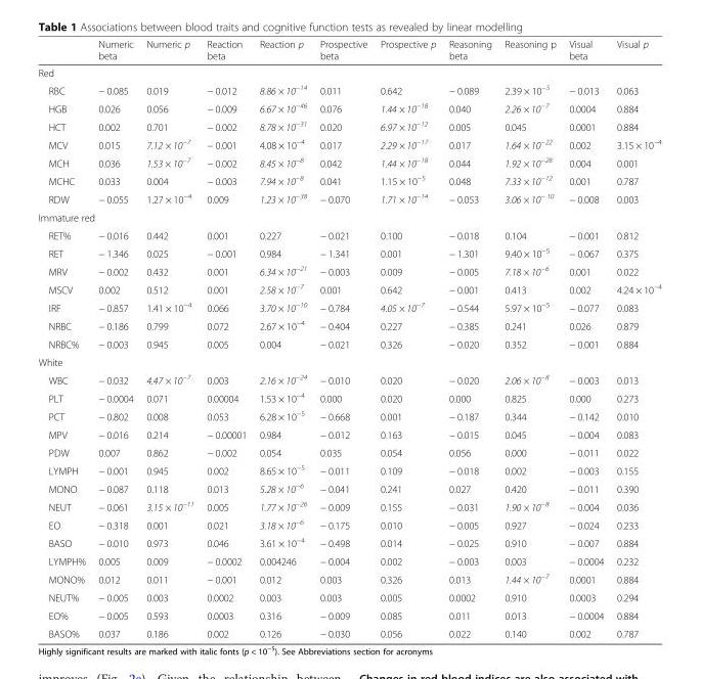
<table><thead><tr><td></td><td>Numeric beta</td><td>Numeric p</td><td>Reaction beta</td><td>Reaction p</td><td>Prospective beta</td><td>Prospective p</td><td>Reasoning beta</td><td>Reasoning p</td><td>Visual beta</td><td>Visual p</td></tr></thead><tbody><tr><td colspan="11">Red</td></tr><tr><td>RBC</td><td>− 0.085</td><td>0.019</td><td>− 0.012</td><td>8.86 × 10<sup>−14</sup></td><td>0.011</td><td>0.642</td><td>− 0.089</td><td>2.39 × 10<sup>−5</sup></td><td>− 0.013</td><td>0.063</td></tr><tr><td>HGB</td><td>0.026</td><td>0.056</td><td>− 0.009</td><td>6.67 × 10<sup>−46</sup></td><td>0.076</td><td>1.44 × 10<sup>−18</sup></td><td>0.040</td><td>2.26 × 10<sup>−7</sup></td><td>0.0004</td><td>0.884</td></tr><tr><td>HCT</td><td>0.002</td><td>0.701</td><td>− 0.002</td><td>8.78 × 10<sup>−31</sup></td><td>0.020</td><td>6.97 × 10<sup>−12</sup></td><td>0.005</td><td>0.045</td><td>0.0001</td><td>0.884</td></tr><tr><td>MCV</td><td>0.015</td><td>7.12 × 10<sup>−7</sup></td><td>− 0.001</td><td>4.08 × 10<sup>−4</sup></td><td>0.017</td><td>2.29 × 10<sup>−17</sup></td><td>0.017</td><td>1.64 × 10<sup>−22</sup></td><td>0.002</td><td>3.15 × 10<sup>−4</sup></td></tr><tr><td>MCH</td><td>0.036</td><td>1.53 × 10<sup>−7</sup></td><td>− 0.002</td><td>8.45 × 10<sup>−8</sup></td><td>0.042</td><td>1.44 × 10<sup>−18</sup></td><td>0.044</td><td>1.92 × 10<sup>−28</sup></td><td>0.004</td><td>0.001</td></tr><tr><td>MCHC</td><td>0.033</td><td>0.004</td><td>− 0.003</td><td>7.94 × 10<sup>−8</sup></td><td>0.041</td><td>1.15 × 10<sup>−5</sup></td><td>0.048</td><td>7.33 × 10<sup>−12</sup></td><td>0.001</td><td>0.787</td></tr><tr><td>RDW</td><td>− 0.055</td><td>1.27 × 10<sup>−4</sup></td><td>0.009</td><td>1.23 × 10<sup>−38</sup></td><td>− 0.070</td><td>1.71 × 10<sup>−14</sup></td><td>− 0.053</td><td>3.06 × 10<sup>− 10</sup></td><td>− 0.008</td><td>0.003</td></tr><tr><td colspan="11">Immature red</td></tr><tr><td>RET%</td><td>− 0.016</td><td>0.442</td><td>0.001</td><td>0.227</td><td>− 0.021</td><td>0.100</td><td>− 0.018</td><td>0.104</td><td>− 0.001</td><td>0.812</td></tr><tr><td>RET</td><td>− 1.346</td><td>0.025</td><td>− 0.001</td><td>0.984</td><td>− 1.341</td><td>0.001</td><td>− 1.301</td><td>9.40 × 10<sup>−5</sup></td><td>− 0.067</td><td>0.375</td></tr><tr><td>MRV</td><td>− 0.002</td><td>0.432</td><td>0.001</td><td>6.34 × 10<sup>−21</sup></td><td>− 0.003</td><td>0.009</td><td>− 0.005</td><td>7.18 × 10<sup>−6</sup></td><td>0.001</td><td>0.022</td></tr><tr><td>MSCV</td><td>0.002</td><td>0.512</td><td>0.001</td><td>2.58 × 10<sup>−7</sup></td><td>0.001</td><td>0.642</td><td>− 0.001</td><td>0.413</td><td>0.002</td><td>4.24 × 10<sup>−4</sup></td></tr><tr><td>IRF</td><td>− 0.857</td><td>1.41 × 10<sup>−4</sup></td><td>0.066</td><td>3.70 × 10<sup>−10</sup></td><td>− 0.784</td><td>4.05 × 10<sup>−7</sup></td><td>− 0.544</td><td>5.97 × 10<sup>−5</sup></td><td>− 0.077</td><td>0.083</td></tr><tr><td>NRBC</td><td>− 0.186</td><td>0.799</td><td>0.072</td><td>2.67 × 10<sup>−4</sup></td><td>− 0.404</td><td>0.227</td><td>− 0.385</td><td>0.241</td><td>0.026</td><td>0.879</td></tr><tr><td>NRBC%</td><td>− 0.003</td><td>0.945</td><td>0.005</td><td>0.004</td><td>− 0.021</td><td>0.326</td><td>− 0.020</td><td>0.352</td><td>− 0.001</td><td>0.884</td></tr><tr><td colspan="11">White</td></tr><tr><td>WBC</td><td>− 0.032</td><td>4.47 × 10<sup>−7</sup></td><td>0.003</td><td>2.16 × 10<sup>−24</sup></td><td>− 0.010</td><td>0.020</td><td>− 0.020</td><td>2.06 × 10<sup>−8</sup></td><td>− 0.003</td><td>0.013</td></tr><tr><td>PLT</td><td>− 0.0004</td><td>0.071</td><td>0.00004</td><td>1.53 × 10<sup>−4</sup></td><td>0.000</td><td>0.020</td><td>0.000</td><td>0.825</td><td>0.000</td><td>0.273</td></tr><tr><td>PCT</td><td>− 0.802</td><td>0.008</td><td>0.053</td><td>6.28 × 10<sup>−5</sup></td><td>− 0.668</td><td>0.001</td><td>− 0.187</td><td>0.344</td><td>− 0.142</td><td>0.010</td></tr><tr><td>MPV</td><td>− 0.016</td><td>0.214</td><td>− 0.00001</td><td>0.984</td><td>− 0.012</td><td>0.163</td><td>− 0.015</td><td>0.045</td><td>− 0.004</td><td>0.083</td></tr><tr><td>PDW</td><td>0.007</td><td>0.862</td><td>− 0.002</td><td>0.054</td><td>0.035</td><td>0.054</td><td>0.056</td><td>0.000</td><td>− 0.011</td><td>0.022</td></tr><tr><td>LYMPH</td><td>− 0.001</td><td>0.945</td><td>0.002</td><td>8.65 × 10<sup>−5</sup></td><td>− 0.011</td><td>0.109</td><td>− 0.018</td><td>0.002</td><td>− 0.003</td><td>0.155</td></tr><tr><td>MONO</td><td>− 0.087</td><td>0.118</td><td>0.013</td><td>5.28 × 10<sup>−6</sup></td><td>− 0.041</td><td>0.241</td><td>0.027</td><td>0.420</td><td>− 0.011</td><td>0.390</td></tr><tr><td>NEUT</td><td>− 0.061</td><td>3.15 × 10<sup>−11</sup></td><td>0.005</td><td>1.77 × 10<sup>−26</sup></td><td>− 0.009</td><td>0.155</td><td>− 0.031</td><td>1.90 × 10<sup>−8</sup></td><td>− 0.004</td><td>0.036</td></tr><tr><td>EO</td><td>− 0.318</td><td>0.001</td><td>0.021</td><td>3.18 × 10<sup>−6</sup></td><td>− 0.175</td><td>0.010</td><td>− 0.005</td><td>0.927</td><td>− 0.024</td><td>0.233</td></tr><tr><td>BASO</td><td>− 0.010</td><td>0.973</td><td>0.046</td><td>3.61 × 10<sup>−4</sup></td><td>− 0.498</td><td>0.014</td><td>− 0.025</td><td>0.910</td><td>− 0.007</td><td>0.884</td></tr><tr><td>LYMPH%</td><td>0.005</td><td>0.009</td><td>− 0.0002</td><td>0.004246</td><td>− 0.004</td><td>0.002</td><td>− 0.003</td><td>0.003</td><td>− 0.0004</td><td>0.232</td></tr><tr><td>MONO%</td><td>0.012</td><td>0.011</td><td>− 0.001</td><td>0.012</td><td>0.003</td><td>0.326</td><td>0.013</td><td>1.44 × 10<sup>−7</sup></td><td>0.0001</td><td>0.884</td></tr><tr><td>NEUT%</td><td>− 0.005</td><td>0.003</td><td>0.0002</td><td>0.003</td><td>0.003</td><td>0.005</td><td>0.0002</td><td>0.910</td><td>0.0003</td><td>0.294</td></tr><tr><td>EO%</td><td>− 0.005</td><td>0.593</td><td>0.0003</td><td>0.316</td><td>− 0.009</td><td>0.085</td><td>0.011</td><td>0.013</td><td>− 0.0004</td><td>0.884</td></tr><tr><td>BASO%</td><td>0.037</td><td>0.186</td><td>0.002</td><td>0.126</td><td>− 0.030</td><td>0.056</td><td>0.022</td><td>0.140</td><td>0.002</td><td>0.787</td></tr></tbody></table>